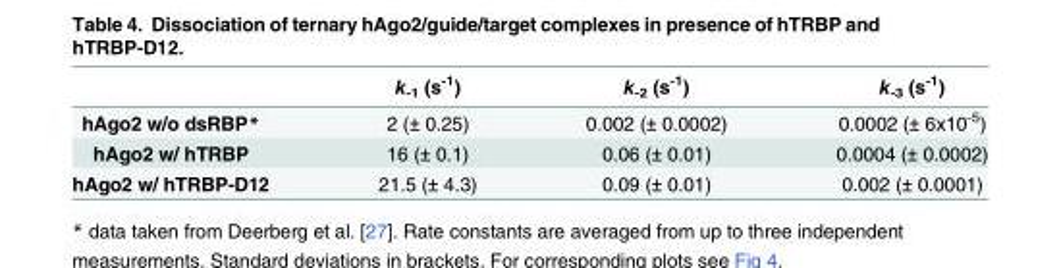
<table><thead><tr><td></td><td>k<sub>-1</sub> (s<sup>-1</sup>)</td><td>k<sub>-2</sub> (s<sup>-1</sup>)</td><td>k<sub>-3</sub> (s<sup>-1</sup>)</td></tr></thead><tbody><tr><td>hAgo2 w/o dsRBP*</td><td>2 (± 0.25)</td><td>0.002 (± 0.0002)</td><td>0.0002 (± 6x10<sup>-5</sup>)</td></tr><tr><td>hAgo2 w/ hTRBP</td><td>16 (± 0.1)</td><td>0.06 (± 0.01)</td><td>0.0004 (± 0.0002)</td></tr><tr><td>hAgo2 w/ hTRBP-D12</td><td>21.5 (± 4.3)</td><td>0.09 (± 0.01)</td><td>0.002 (± 0.0001)</td></tr></tbody></table>